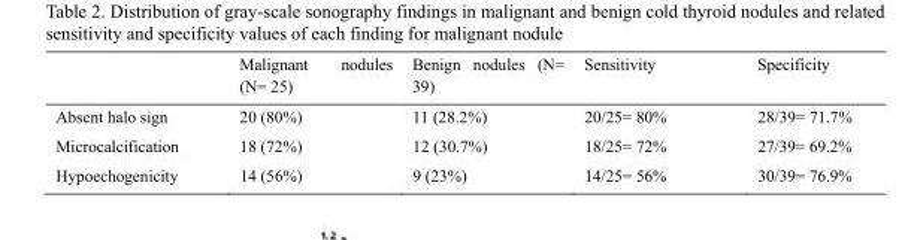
<table><thead><tr><td></td><td>Malignant nodules (N= 25)</td><td>Benign nodules (N= 39)</td><td>Sensitivity</td><td>Specificity</td></tr></thead><tbody><tr><td>Absent halo sign</td><td>20 (80%)</td><td>11 (28.2%)</td><td>20/25= 80%</td><td>28/39= 71.7%</td></tr><tr><td>Microcalcification</td><td>18 (72%)</td><td>12 (30.7%)</td><td>18/25= 72%</td><td>27/39= 69.2%</td></tr><tr><td>Hypoechogenicity</td><td>14 (56%)</td><td>9 (23%)</td><td>14/25= 56%</td><td>30/39= 76.9%</td></tr></tbody></table>